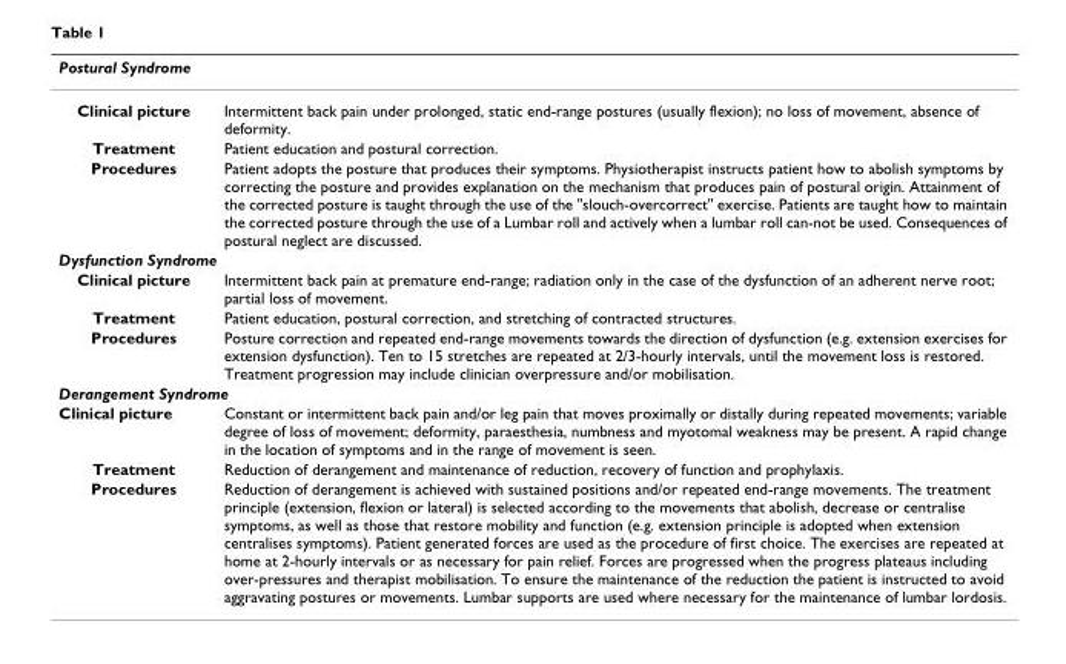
<table><thead><tr><td colspan="2">Postural Syndrome</td></tr><tr><td>Clinical picture</td><td>Intermittent back pain under prolonged, static end-range postures (usually flexion); no loss of movement, absence of deformity.</td></tr></thead><tbody><tr><td>Treatment</td><td>Patient education and postural correction.</td></tr><tr><td>Procedures</td><td>Patient adopts the posture that produces their symptoms. Physiotherapist instructs patient how to abolish symptoms by correcting the posture and provides explanation on the mechanism that produces pain of postural origin. Attainment of the corrected posture is taught through the use of the &quot;slouch-overcorrect&quot; exercise. Patients are taught how to maintain the corrected posture through the use of a Lumbar roll and actively when a lumbar roll can-not be used. Consequences of postural neglect are discussed.</td></tr><tr><td colspan="2">Dysfunction Syndrome</td></tr><tr><td>Clinical picture</td><td>Intermittent back pain at premature end-range; radiation only in the case of the dysfunction of an adherent nerve root; partial loss of movement.</td></tr><tr><td>Treatment</td><td>Patient education, postural correction, and stretching of contracted structures.</td></tr><tr><td>Procedures</td><td>Posture correction and repeated end-range movements towards the direction of dysfunction (e.g. extension exercises for extension dysfunction). Ten to 15 stretches are repeated at 2/3-hourly intervals, until the movement loss is restored. Treatment progression may include clinician overpressure and/or mobilisation.</td></tr><tr><td colspan="2">Derangement Syndrome</td></tr><tr><td>Clinical picture</td><td>Constant or intermittent back pain and/or leg pain that moves proximally or distally during repeated movements; variable degree of loss of movement; deformity, paraesthesia, numbness and myotomal weakness may be present. A rapid change in the location of symptoms and in the range of movement is seen.</td></tr><tr><td>Treatment</td><td>Reduction of derangement and maintenance of reduction, recovery of function and prophylaxis.</td></tr><tr><td>Procedures</td><td>Reduction of derangement is achieved with sustained positions and/or repeated end-range movements. The treatment principle (extension, flexion or lateral) is selected according to the movements that abolish, decrease or centralise symptoms, as well as those that restore mobility and function (e.g. extension principle is adopted when extension centralises symptoms). Patient generated forces are used as the procedure of first choice. The exercises are repeated at home at 2-hourly intervals or as necessary for pain relief. Forces are progressed when the progress plateaus including over-pressures and therapist mobilisation. To ensure the maintenance of the reduction the patient is instructed to avoid aggravating postures or movements. Lumbar supports are used where necessary for the maintenance of lumbar lordosis.</td></tr></tbody></table>